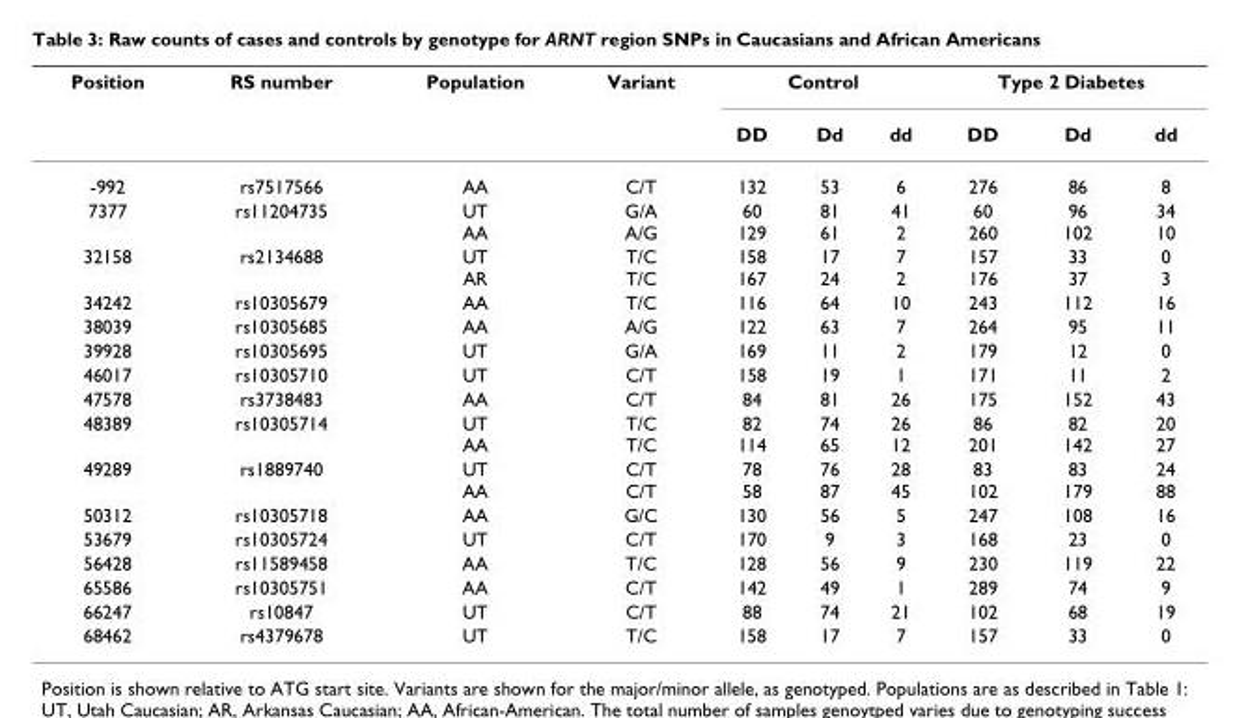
<table><thead><tr><td rowspan="2">Position</td><td rowspan="2">RS number</td><td rowspan="2">Population</td><td rowspan="2">Variant</td><td colspan="3">Control</td><td colspan="3">Type 2 Diabetes</td></tr><tr><td>DD</td><td>Dd</td><td>dd</td><td>DD</td><td>Dd</td><td>dd</td></tr></thead><tbody><tr><td>-992</td><td>rs7517566</td><td>AA</td><td>C/T</td><td>132</td><td>53</td><td>6</td><td>276</td><td>86</td><td>8</td></tr><tr><td>7377</td><td>rs11204735</td><td>UT AA</td><td>G/A A/G</td><td>60 129</td><td>81 61</td><td>41 2</td><td>60 260</td><td>96 102</td><td>34 10</td></tr><tr><td>32158</td><td>rs2134688</td><td>UT AR</td><td>T/C T/C</td><td>158 167</td><td>17 24</td><td>7 2</td><td>157 176</td><td>33 37</td><td>0 3</td></tr><tr><td>34242</td><td>rs10305679</td><td>AA</td><td>T/C</td><td>116</td><td>64</td><td>10</td><td>243</td><td>112</td><td>16</td></tr><tr><td>38039</td><td>rs10305685</td><td>AA</td><td>A/G</td><td>122</td><td>63</td><td>7</td><td>264</td><td>95</td><td>11</td></tr><tr><td>39928</td><td>rs10305695</td><td>UT</td><td>G/A</td><td>169</td><td>11</td><td>2</td><td>179</td><td>12</td><td>0</td></tr><tr><td>46017</td><td>rs10305710</td><td>UT</td><td>C/T</td><td>158</td><td>19</td><td>1</td><td>171</td><td>11</td><td>2</td></tr><tr><td>47578</td><td>rs3738483</td><td>AA</td><td>C/T</td><td>84</td><td>81</td><td>26</td><td>175</td><td>152</td><td>43</td></tr><tr><td>48389</td><td>rs10305714</td><td>UT AA</td><td>T/C T/C</td><td>82 114</td><td>74 65</td><td>26 12</td><td>86 201</td><td>82 142</td><td>20 27</td></tr><tr><td>49289</td><td>rs1889740</td><td>UT AA</td><td>C/T C/T</td><td>78 58</td><td>76 87</td><td>28 45</td><td>83 102</td><td>83 179</td><td>24 88</td></tr><tr><td>50312</td><td>rs10305718</td><td>AA</td><td>G/C</td><td>130</td><td>56</td><td>5</td><td>247</td><td>108</td><td>16</td></tr><tr><td>53679</td><td>rs10305724</td><td>UT</td><td>C/T</td><td>170</td><td>9</td><td>3</td><td>168</td><td>23</td><td>0</td></tr><tr><td>56428</td><td>rs11589458</td><td>AA</td><td>T/C</td><td>128</td><td>56</td><td>9</td><td>230</td><td>119</td><td>22</td></tr><tr><td>65586</td><td>rs10305751</td><td>AA</td><td>C/T</td><td>142</td><td>49</td><td>1</td><td>289</td><td>74</td><td>9</td></tr><tr><td>66247</td><td>rs10847</td><td>UT</td><td>C/T</td><td>88</td><td>74</td><td>21</td><td>102</td><td>68</td><td>19</td></tr><tr><td>68462</td><td>rs4379678</td><td>UT</td><td>T/C</td><td>158</td><td>17</td><td>7</td><td>157</td><td>33</td><td>0</td></tr></tbody></table>